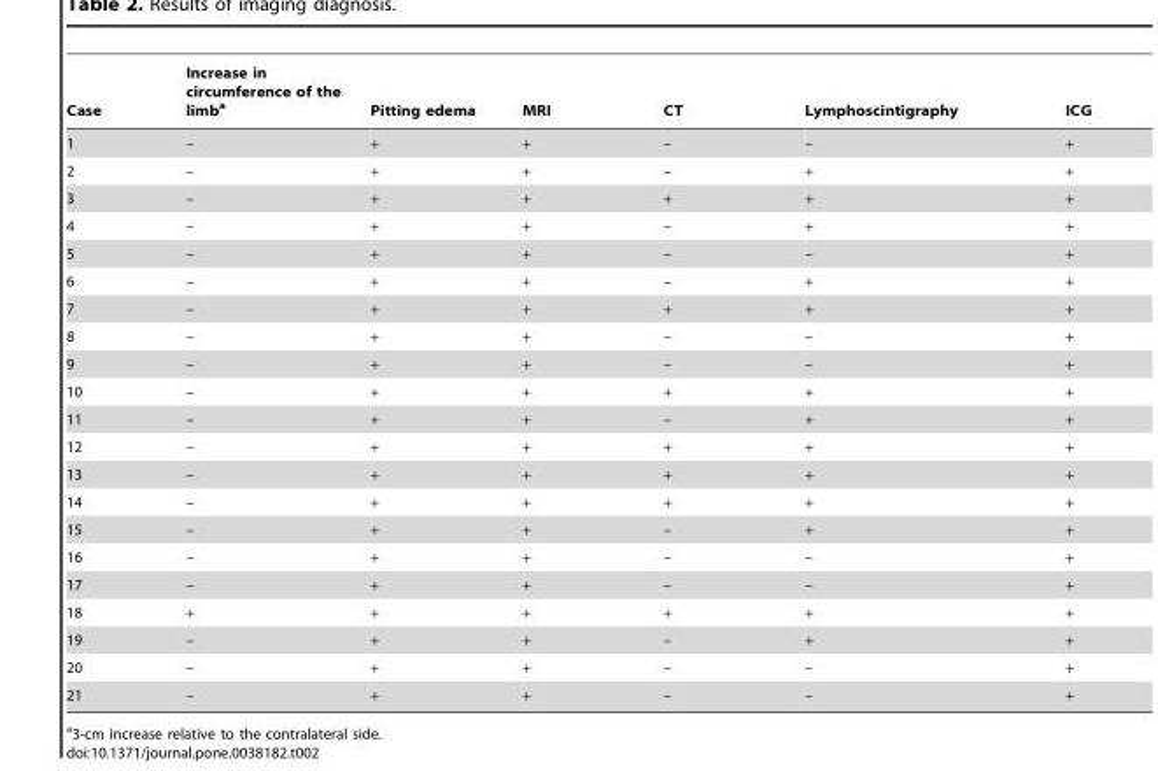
<table><thead><tr><td>Case</td><td>Increase in circumference of the limb<sup>a</sup></td><td>Pitting edema</td><td>MRI</td><td>CT</td><td>Lymphoscintigraphy</td><td>ICG</td></tr></thead><tbody><tr><td>1</td><td>–</td><td>+</td><td>+</td><td>–</td><td>–</td><td>+</td></tr><tr><td>2</td><td>–</td><td>+</td><td>+</td><td>–</td><td>+</td><td>+</td></tr><tr><td>3</td><td>–</td><td>+</td><td>+</td><td>+</td><td>+</td><td>+</td></tr><tr><td>4</td><td>–</td><td>+</td><td>+</td><td>–</td><td>+</td><td>+</td></tr><tr><td>5</td><td>–</td><td>+</td><td>+</td><td>–</td><td>–</td><td>+</td></tr><tr><td>6</td><td>–</td><td>+</td><td>+</td><td>–</td><td>+</td><td>+</td></tr><tr><td>7</td><td>–</td><td>+</td><td>+</td><td>+</td><td>+</td><td>+</td></tr><tr><td>8</td><td>–</td><td>+</td><td>+</td><td>–</td><td>–</td><td>+</td></tr><tr><td>9</td><td>–</td><td>+</td><td>+</td><td>–</td><td>–</td><td>+</td></tr><tr><td>10</td><td>–</td><td>+</td><td>+</td><td>+</td><td>+</td><td>+</td></tr><tr><td>11</td><td>–</td><td>+</td><td>+</td><td>–</td><td>+</td><td>+</td></tr><tr><td>12</td><td>–</td><td>+</td><td>+</td><td>+</td><td>+</td><td>+</td></tr><tr><td>13</td><td>–</td><td>+</td><td>+</td><td>+</td><td>+</td><td>+</td></tr><tr><td>14</td><td>–</td><td>+</td><td>+</td><td>+</td><td>+</td><td>+</td></tr><tr><td>15</td><td>–</td><td>+</td><td>+</td><td>–</td><td>+</td><td>+</td></tr><tr><td>16</td><td>–</td><td>+</td><td>+</td><td>–</td><td>–</td><td>+</td></tr><tr><td>17</td><td>–</td><td>+</td><td>+</td><td>–</td><td>–</td><td>+</td></tr><tr><td>18</td><td>+</td><td>+</td><td>+</td><td>+</td><td>+</td><td>+</td></tr><tr><td>19</td><td>–</td><td>+</td><td>+</td><td>–</td><td>+</td><td>+</td></tr><tr><td>20</td><td>–</td><td>+</td><td>+</td><td>–</td><td>–</td><td>+</td></tr><tr><td>21</td><td>–</td><td>+</td><td>+</td><td>–</td><td>–</td><td>+</td></tr></tbody></table>